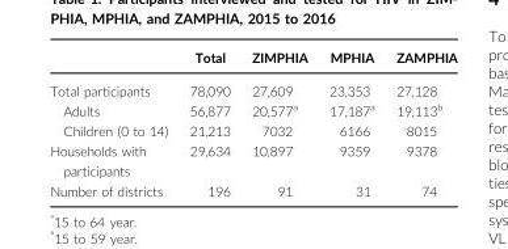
<table><thead><tr><td></td><td>Total</td><td>ZIMPHIA</td><td>MPHIA</td><td>ZAMPHIA</td></tr></thead><tbody><tr><td>Total participants</td><td>78,090</td><td>27,609</td><td>23,353</td><td>27,128</td></tr><tr><td>Adults</td><td>56,877</td><td>20,577<sup>a</sup></td><td>17,187<sup>a</sup></td><td>19,113<sup>b</sup></td></tr><tr><td>Children (0 to 14)</td><td>21,213</td><td>7032</td><td>6166</td><td>8015</td></tr><tr><td>Households with participants</td><td>29,634</td><td>10,897</td><td>9359</td><td>9378</td></tr><tr><td>Number of districts</td><td>196</td><td>91</td><td>31</td><td>74</td></tr></tbody></table>